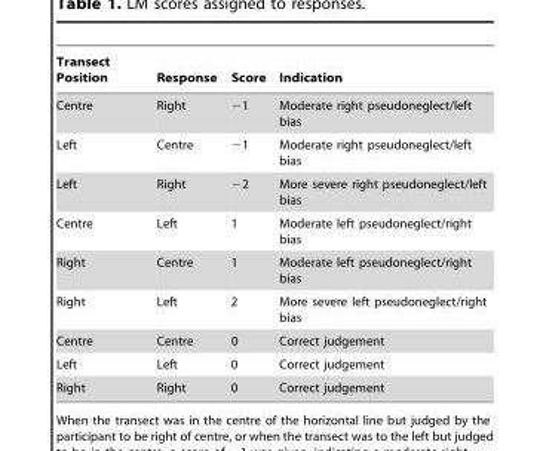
<table><thead><tr><td>Transect Position</td><td>Response</td><td>Score</td><td>Indication</td></tr></thead><tbody><tr><td>Centre</td><td>Right</td><td>−1</td><td>Moderate right pseudoneglect/left bias</td></tr><tr><td>Left</td><td>Centre</td><td>−1</td><td>Moderate right pseudoneglect/left bias</td></tr><tr><td>Left</td><td>Right</td><td>−2</td><td>More severe right pseudoneglect/left bias</td></tr><tr><td>Centre</td><td>Left</td><td>1</td><td>Moderate left pseudoneglect/right bias</td></tr><tr><td>Right</td><td>Centre</td><td>1</td><td>Moderate left pseudoneglect/right bias</td></tr><tr><td>Right</td><td>Left</td><td>2</td><td>More severe left pseudoneglect/right bias</td></tr><tr><td>Centre</td><td>Centre</td><td>0</td><td>Correct judgement</td></tr><tr><td>Left</td><td>Left</td><td>0</td><td>Correct judgement</td></tr><tr><td>Right</td><td>Right</td><td>0</td><td>Correct judgement</td></tr></tbody></table>